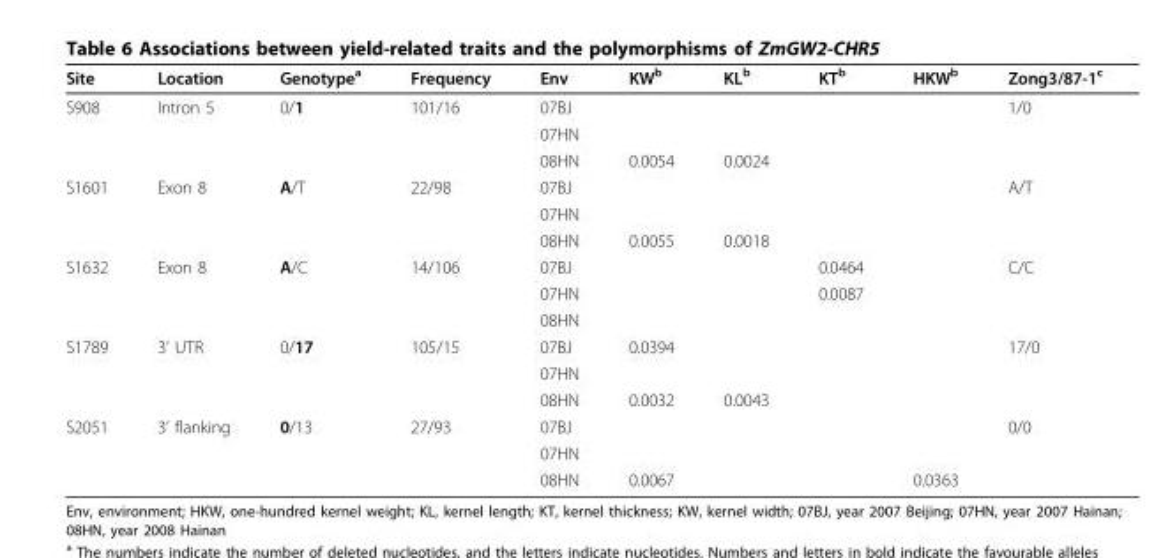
<table><thead><tr><td>Site</td><td>Location</td><td>Genotype<sup>a</sup></td><td>Frequency</td><td>Env</td><td>KW<sup>b</sup></td><td>KL<sup>b</sup></td><td>KT<sup>b</sup></td><td>HKW<sup>b</sup></td><td>Zong3/87-1<sup>c</sup></td></tr></thead><tbody><tr><td rowspan="3">S908</td><td>Intron 5</td><td>0/1</td><td>101/16</td><td>07BJ</td><td></td><td></td><td></td><td></td><td>1/0</td></tr><tr><td></td><td></td><td></td><td>07HN</td><td></td><td></td><td></td><td></td><td></td></tr><tr><td></td><td></td><td></td><td>08HN</td><td>0.0054</td><td>0.0024</td><td></td><td></td><td></td></tr><tr><td rowspan="3">S1601</td><td>Exon 8</td><td>A/T</td><td>22/98</td><td>07BJ</td><td></td><td></td><td></td><td></td><td>A/T</td></tr><tr><td></td><td></td><td></td><td>07HN</td><td></td><td></td><td></td><td></td><td></td></tr><tr><td></td><td></td><td></td><td>08HN</td><td>0.0055</td><td>0.0018</td><td></td><td></td><td></td></tr><tr><td rowspan="3">S1632</td><td>Exon 8</td><td>A/C</td><td>14/106</td><td>07BJ</td><td></td><td></td><td>0.0464</td><td></td><td>C/C</td></tr><tr><td></td><td></td><td></td><td>07HN</td><td></td><td></td><td>0.0087</td><td></td><td></td></tr><tr><td></td><td></td><td></td><td>08HN</td><td></td><td></td><td></td><td></td><td></td></tr><tr><td rowspan="3">S1789</td><td>3’ UTR</td><td>0/17</td><td>105/15</td><td>07BJ</td><td>0.0394</td><td></td><td></td><td></td><td>17/0</td></tr><tr><td></td><td></td><td></td><td>07HN</td><td></td><td></td><td></td><td></td><td></td></tr><tr><td></td><td></td><td></td><td>08HN</td><td>0.0032</td><td>0.0043</td><td></td><td></td><td></td></tr><tr><td rowspan="3">S2051</td><td>3’ flanking</td><td>0/13</td><td>27/93</td><td>07BJ</td><td></td><td></td><td></td><td></td><td>0/0</td></tr><tr><td></td><td></td><td></td><td>07HN</td><td></td><td></td><td></td><td></td><td></td></tr><tr><td></td><td></td><td></td><td>08HN</td><td>0.0067</td><td></td><td></td><td>0.0363</td><td></td></tr></tbody></table>